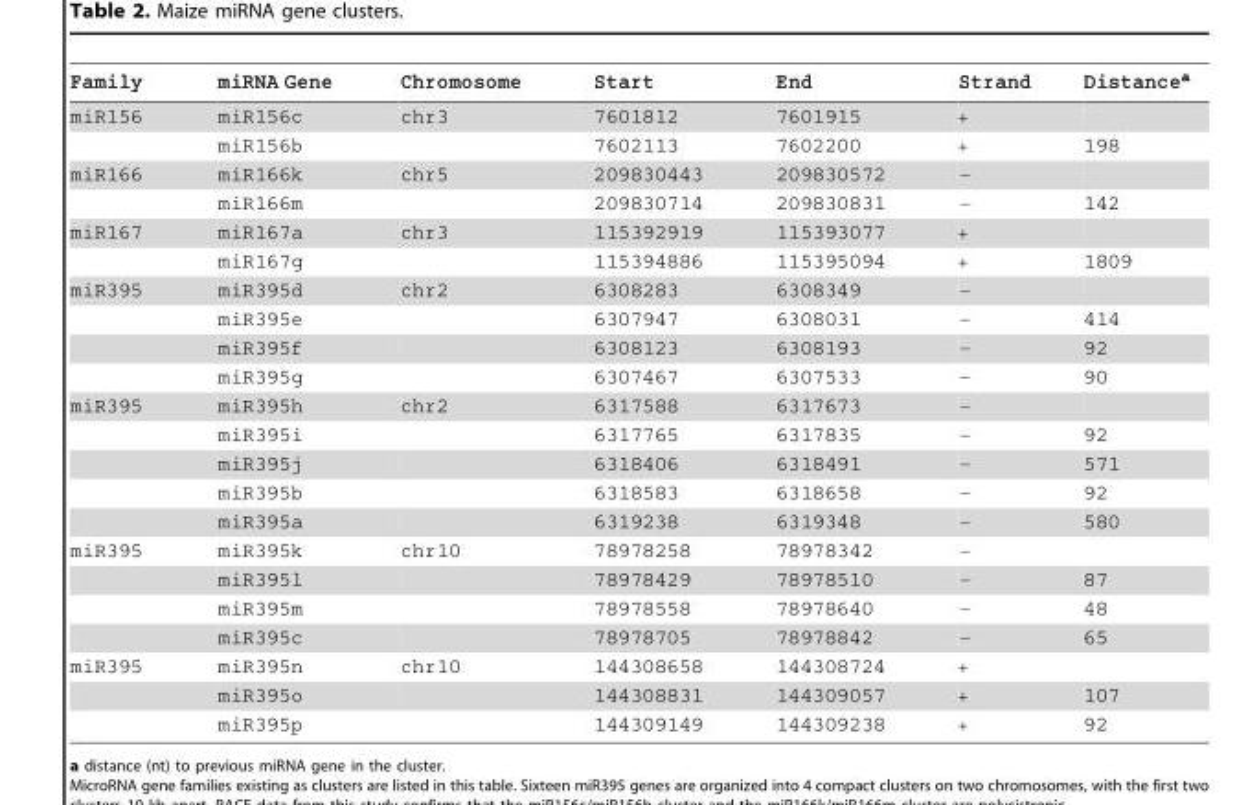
<table><thead><tr><td>Family</td><td>miRNA Gene</td><td>Chromosome</td><td>Start</td><td>End</td><td>Strand</td><td>Distance<sup>a</sup></td></tr></thead><tbody><tr><td rowspan="2">miR156</td><td>miR156c</td><td>chr3</td><td>7601812</td><td>7601915</td><td>+</td><td></td></tr><tr><td>miR156b</td><td></td><td>7602113</td><td>7602200</td><td>+</td><td>198</td></tr><tr><td rowspan="2">miR166</td><td>miR166k</td><td>chr5</td><td>209830443</td><td>209830572</td><td>−</td><td></td></tr><tr><td>miR166m</td><td></td><td>209830714</td><td>209830831</td><td>−</td><td>142</td></tr><tr><td rowspan="2">miR167</td><td>miR167a</td><td>chr3</td><td>115392919</td><td>115393077</td><td>+</td><td></td></tr><tr><td>miR167g</td><td></td><td>115394886</td><td>115395094</td><td>+</td><td>1809</td></tr><tr><td rowspan="4">miR395</td><td>miR395d</td><td>chr2</td><td>6308283</td><td>6308349</td><td>−</td><td></td></tr><tr><td>miR395e</td><td></td><td>6307947</td><td>6308031</td><td>−</td><td>414</td></tr><tr><td>miR395f</td><td></td><td>6308123</td><td>6308193</td><td>−</td><td>92</td></tr><tr><td>miR395g</td><td></td><td>6307467</td><td>6307533</td><td>−</td><td>90</td></tr><tr><td rowspan="5">miR395</td><td>miR395h</td><td>chr2</td><td>6317588</td><td>6317673</td><td>−</td><td></td></tr><tr><td>miR395i</td><td></td><td>6317765</td><td>6317835</td><td>−</td><td>92</td></tr><tr><td>miR395j</td><td></td><td>6318406</td><td>6318491</td><td>−</td><td>571</td></tr><tr><td>miR395b</td><td></td><td>6318583</td><td>6318658</td><td>−</td><td>92</td></tr><tr><td>miR395a</td><td></td><td>6319238</td><td>6319348</td><td>−</td><td>580</td></tr><tr><td rowspan="4">miR395</td><td>miR395k</td><td>chr10</td><td>78978258</td><td>78978342</td><td>−</td><td></td></tr><tr><td>miR395l</td><td></td><td>78978429</td><td>78978510</td><td>−</td><td>87</td></tr><tr><td>miR395m</td><td></td><td>78978558</td><td>78978640</td><td>−</td><td>48</td></tr><tr><td>miR395c</td><td></td><td>78978705</td><td>78978842</td><td>−</td><td>65</td></tr><tr><td rowspan="3">miR395</td><td>miR395n</td><td>chr10</td><td>144308658</td><td>144308724</td><td>+</td><td></td></tr><tr><td>miR395o</td><td></td><td>144308831</td><td>144309057</td><td>+</td><td>107</td></tr><tr><td>miR395p</td><td></td><td>144309149</td><td>144309238</td><td>+</td><td>92</td></tr></tbody></table>